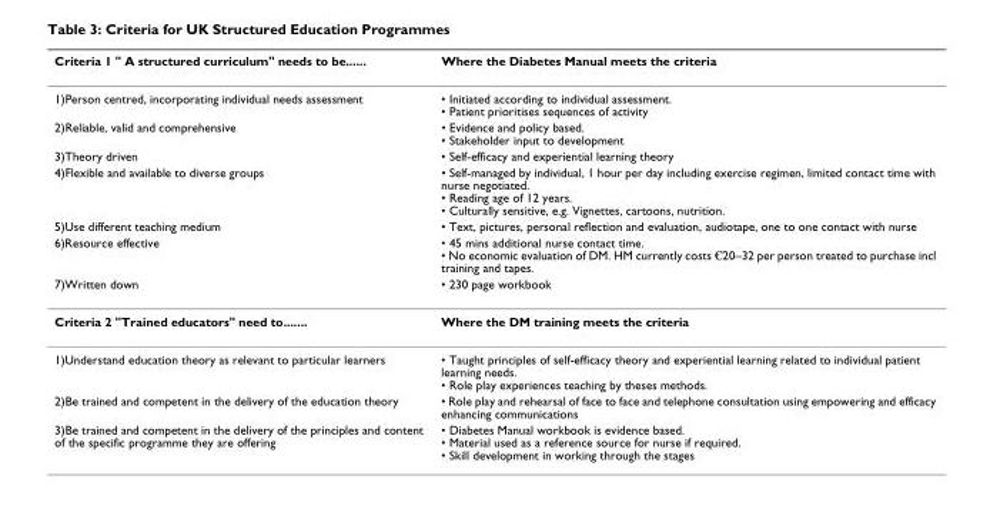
<table><thead><tr><td>Criteria 1 &quot; A structured curriculum&quot; needs to be......</td><td>Where the Diabetes Manual meets the criteria</td></tr></thead><tbody><tr><td>1)Person centred, incorporating individual needs assessment</td><td>• Initiated according to individual assessment. • Patient prioritises sequences of activity</td></tr><tr><td>2)Reliable, valid and comprehensive</td><td>• Evidence and policy based. • Stakeholder input to development</td></tr><tr><td>3)Theory driven</td><td>• Self-efficacy and experiential learning theory</td></tr><tr><td>4)Flexible and available to diverse groups</td><td>• Self-managed by individual, 1 hour per day including exercise regimen, limited contact time with nurse negotiated. • Reading age of 12 years. • Culturally sensitive, e.g. Vignettes, cartoons, nutrition.</td></tr><tr><td>5)Use different teaching medium</td><td>• Text, pictures, personal reflection and evaluation, audiotape, one to one contact with nurse</td></tr><tr><td>6)Resource effective</td><td>• 45 mins additional nurse contact time. • No economic evaluation of DM. HM currently costs €20–32 per person treated to purchase incl training and tapes.</td></tr><tr><td>7)Written down</td><td>• 230 page workbook</td></tr><tr><td>Criteria 2 &quot;Trained educators&quot; need to.......</td><td>Where the DM training meets the criteria</td></tr><tr><td>1)Understand education theory as relevant to particular learners</td><td>• Taught principles of self-efficacy theory and experiential learning related to individual patient learning needs. • Role play experiences teaching by theses methods.</td></tr><tr><td>2)Be trained and competent in the delivery of the education theory</td><td>• Role play and rehearsal of face to face and telephone consultation using empowering and efficacy enhancing communications</td></tr><tr><td>3)Be trained and competent in the delivery of the principles and content of the specific programme they are offering</td><td>• Diabetes Manual workbook is evidence based. • Material used as a reference source for nurse if required. • Skill development in working through the stages</td></tr></tbody></table>